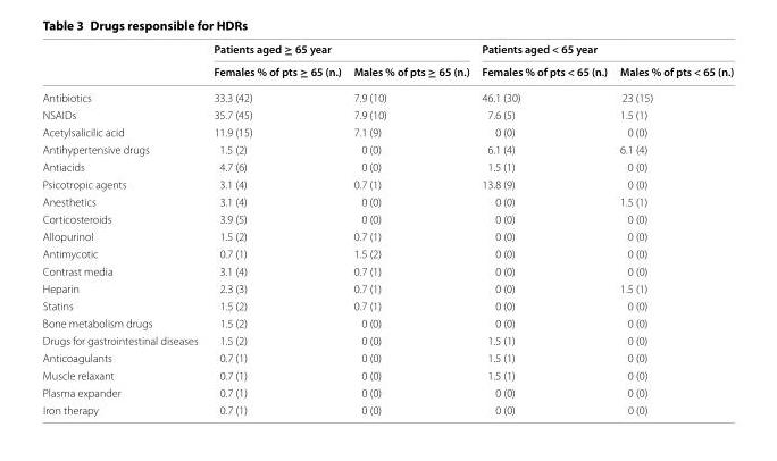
<table><thead><tr><td rowspan="2"></td><td colspan="2">Patients aged ≥ 65 year</td><td colspan="2">Patients aged &lt; 65 year</td></tr><tr><td>Females % of pts ≥ 65 (n.)</td><td>Males % of pts ≥ 65 (n.)</td><td>Females % of pts &lt; 65 (n.)</td><td>Males % of pts &lt; 65 (n.)</td></tr></thead><tbody><tr><td>Antibiotics</td><td>33.3 (42)</td><td>7.9 (10)</td><td>46.1 (30)</td><td>23 (15)</td></tr><tr><td>NSAIDs</td><td>35.7 (45)</td><td>7.9 (10)</td><td>7.6 (5)</td><td>1.5 (1)</td></tr><tr><td>Acetylsalicilic acid</td><td>11.9 (15)</td><td>7.1 (9)</td><td>0 (0)</td><td>0 (0)</td></tr><tr><td>Antihypertensive drugs</td><td>1.5 (2)</td><td>0 (0)</td><td>6.1 (4)</td><td>6.1 (4)</td></tr><tr><td>Antiacids</td><td>4.7 (6)</td><td>0 (0)</td><td>1.5 (1)</td><td>0 (0)</td></tr><tr><td>Psicotropic agents</td><td>3.1 (4)</td><td>0.7 (1)</td><td>13.8 (9)</td><td>0 (0)</td></tr><tr><td>Anesthetics</td><td>3.1 (4)</td><td>0 (0)</td><td>0 (0)</td><td>1.5 (1)</td></tr><tr><td>Corticosteroids</td><td>3.9 (5)</td><td>0 (0)</td><td>0 (0)</td><td>0 (0)</td></tr><tr><td>Allopurinol</td><td>1.5 (2)</td><td>0.7 (1)</td><td>0 (0)</td><td>0 (0)</td></tr><tr><td>Antimycotic</td><td>0.7 (1)</td><td>1.5 (2)</td><td>0 (0)</td><td>0 (0)</td></tr><tr><td>Contrast media</td><td>3.1 (4)</td><td>0.7 (1)</td><td>0 (0)</td><td>0 (0)</td></tr><tr><td>Heparin</td><td>2.3 (3)</td><td>0.7 (1)</td><td>0 (0)</td><td>1.5 (1)</td></tr><tr><td>Statins</td><td>1.5 (2)</td><td>0.7 (1)</td><td>0 (0)</td><td>0 (0)</td></tr><tr><td>Bone metabolism drugs</td><td>1.5 (2)</td><td>0 (0)</td><td>0 (0)</td><td>0 (0)</td></tr><tr><td>Drugs for gastrointestinal diseases</td><td>1.5 (2)</td><td>0 (0)</td><td>1.5 (1)</td><td>0 (0)</td></tr><tr><td>Anticoagulants</td><td>0.7 (1)</td><td>0 (0)</td><td>1.5 (1)</td><td>0 (0)</td></tr><tr><td>Muscle relaxant</td><td>0.7 (1)</td><td>0 (0)</td><td>1.5 (1)</td><td>0 (0)</td></tr><tr><td>Plasma expander</td><td>0.7 (1)</td><td>0 (0)</td><td>0 (0)</td><td>0 (0)</td></tr><tr><td>Iron therapy</td><td>0.7 (1)</td><td>0 (0)</td><td>0 (0)</td><td>0 (0)</td></tr></tbody></table>